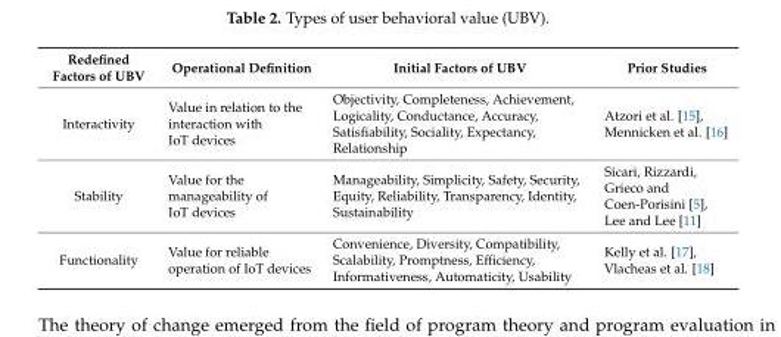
<table><thead><tr><td>Redefined Factors of UBV</td><td>Operational Definition</td><td>Initial Factors of UBV</td><td>Prior Studies</td></tr></thead><tbody><tr><td>Interactivity</td><td>Value in relation to the interaction with IoT devices</td><td>Objectivity, Completeness, Achievement, Logicality, Conductance, Accuracy, Satisfiability, Sociality, Expectancy, Relationship</td><td>Atzori et al. [15], Mennicken et al. [16]</td></tr><tr><td>Stability</td><td>Value for the manageability of IoT devices</td><td>Manageability, Simplicity, Safety, Security, Equity, Reliability, Transparency, Identity, Sustainability</td><td>Sicari, Rizzardi, Grieco and Coen-Porisini [5], Lee and Lee [11]</td></tr><tr><td>Functionality</td><td>Value for reliable operation of IoT devices</td><td>Convenience, Diversity, Compatibility, Scalability, Promptness, Efficiency, Informativeness, Automaticity, Usability</td><td>Kelly et al. [17], Vlacheas et al. [18]</td></tr></tbody></table>